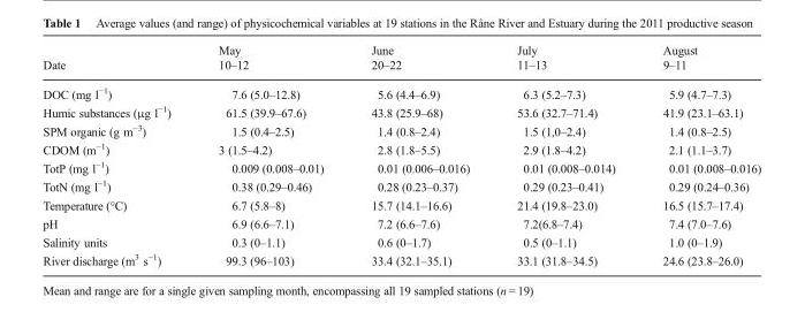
<table><thead><tr><td rowspan="2">Date</td><td rowspan="2">May 10–12</td><td rowspan="2">June 20–22</td><td rowspan="2">July 11–13</td><td rowspan="2">August 9–11</td></tr><tr></tr></thead><tbody><tr><td>DOC (mg l<sup>−1</sup>)</td><td>7.6 (5.0–12.8)</td><td>5.6 (4.4–6.9)</td><td>6.3 (5.2–7.3)</td><td>5.9 (4.7–7.3)</td></tr><tr><td>Humic substances (μg l<sup>−1</sup>)</td><td>61.5 (39.9–67.6)</td><td>43.8 (25.9–68)</td><td>53.6 (32.7–71.4)</td><td>41.9 (23.1–63.1)</td></tr><tr><td>SPM organic (g m<sup>−3</sup>)</td><td>1.5 (0.4–2.5)</td><td>1.4 (0.8–2.4)</td><td>1.5 (1,0–2.4)</td><td>1.4 (0.8–2.5)</td></tr><tr><td>CDOM (m<sup>−1</sup>)</td><td>3 (1.5–4.2)</td><td>2.8 (1.8–5.5)</td><td>2.9 (1.8–4.2)</td><td>2.1 (1.1–3.7)</td></tr><tr><td>TotP (mg l<sup>−1</sup>)</td><td>0.009 (0.008–0.01)</td><td>0.01 (0.006–0.016)</td><td>0.01 (0.008–0.014)</td><td>0.01 (0.008–0.016)</td></tr><tr><td>TotN (mg l<sup>−1</sup>)</td><td>0.38 (0.29–0.46)</td><td>0.28 (0.23–0.37)</td><td>0.29 (0.23–0.41)</td><td>0.29 (0.24–0.36)</td></tr><tr><td>Temperature (°C)</td><td>6.7 (5.8–8)</td><td>15.7 (14.1–16.6)</td><td>21.4 (19.8–23.0)</td><td>16.5 (15.7–17.4)</td></tr><tr><td>pH</td><td>6.9 (6.6–7.1)</td><td>7.2 (6.6–7.6)</td><td>7.2(6.8–7.4)</td><td>7.4 (7.0–7.6)</td></tr><tr><td>Salinity units</td><td>0.3 (0–1.1)</td><td>0.6 (0–1.7)</td><td>0.5 (0–1.1)</td><td>1.0 (0–1.9)</td></tr><tr><td>River discharge (m<sup>3</sup> s<sup>−1</sup>)</td><td>99.3 (96–103)</td><td>33.4 (32.1–35.1)</td><td>33.1 (31.8–34.5)</td><td>24.6 (23.8–26.0)</td></tr></tbody></table>